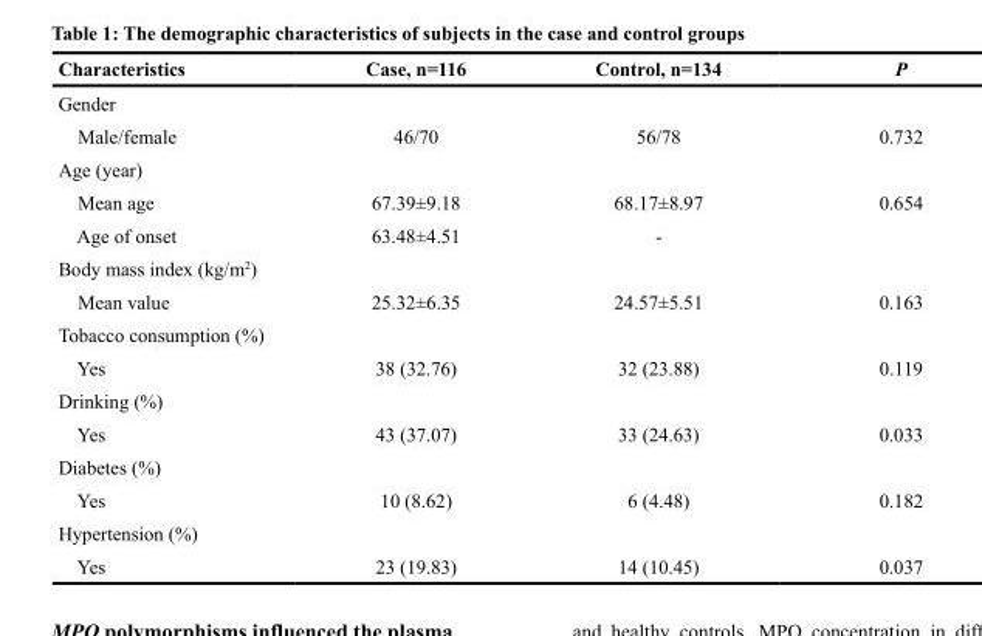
<table><thead><tr><td>Characteristics</td><td>Case, n=116</td><td>Control, n=134</td><td>P</td></tr></thead><tbody><tr><td colspan="4">Gender</td></tr><tr><td>Male/female</td><td>46/70</td><td>56/78</td><td>0.732</td></tr><tr><td colspan="4">Age (year)</td></tr><tr><td>Mean age</td><td>67.39±9.18</td><td>68.17±8.97</td><td>0.654</td></tr><tr><td>Age of onset</td><td>63.48±4.51</td><td>-</td><td></td></tr><tr><td colspan="4">Body mass index (kg/m<sup>2</sup>)</td></tr><tr><td>Mean value</td><td>25.32±6.35</td><td>24.57±5.51</td><td>0.163</td></tr><tr><td colspan="4">Tobacco consumption (%)</td></tr><tr><td>Yes</td><td>38 (32.76)</td><td>32 (23.88)</td><td>0.119</td></tr><tr><td colspan="4">Drinking (%)</td></tr><tr><td>Yes</td><td>43 (37.07)</td><td>33 (24.63)</td><td>0.033</td></tr><tr><td colspan="4">Diabetes (%)</td></tr><tr><td>Yes</td><td>10 (8.62)</td><td>6 (4.48)</td><td>0.182</td></tr><tr><td colspan="4">Hypertension (%)</td></tr><tr><td>Yes</td><td>23 (19.83)</td><td>14 (10.45)</td><td>0.037</td></tr></tbody></table>